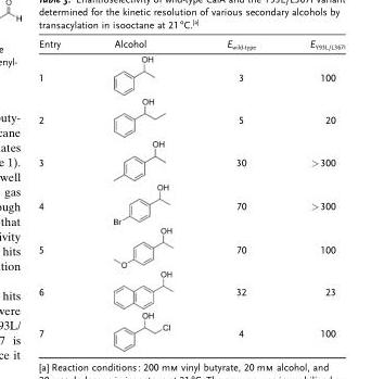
<table><thead><tr><td>Entry</td><td>Alcohol</td><td>E<sub>wild-type</sub></td><td>E<sub>Y93L/L367I</sub></td></tr></thead><tbody><tr><td>1</td><td></td><td>3</td><td>100</td></tr><tr><td>2</td><td></td><td>5</td><td>20</td></tr><tr><td>3</td><td></td><td>30</td><td>&gt;300</td></tr><tr><td>4</td><td></td><td>70</td><td>&gt;300</td></tr><tr><td>5</td><td></td><td>70</td><td>100</td></tr><tr><td>6</td><td></td><td>32</td><td>23</td></tr><tr><td>7</td><td></td><td>4</td><td>100</td></tr></tbody></table>